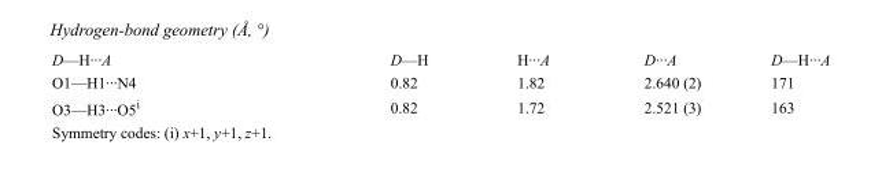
<table><tbody><tr><td>D—H···A</td><td>D—H</td><td>H···A</td><td>D···A</td><td>D—H···A</td></tr><tr><td>O1—H1···N4</td><td>0.82</td><td>1.82</td><td>2.640 (2)</td><td>171</td></tr><tr><td>O3—H3···O5<sup>i</sup></td><td>0.82</td><td>1.72</td><td>2.521 (3)</td><td>163</td></tr></tbody></table>